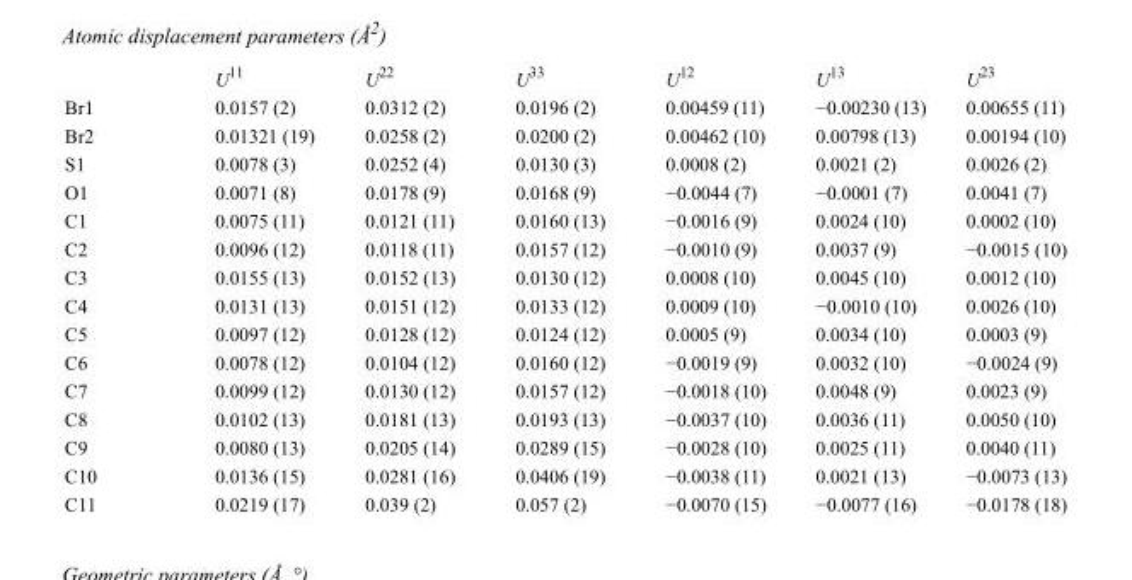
<table><thead><tr><td></td><td>U<sup>11</sup></td><td>U<sup>22</sup></td><td>U<sup>33</sup></td><td>U<sup>12</sup></td><td>U<sup>13</sup></td><td>U<sup>23</sup></td></tr></thead><tbody><tr><td>Br1</td><td>0.0157 (2)</td><td>0.0312 (2)</td><td>0.0196 (2)</td><td>0.00459 (11)</td><td>−0.00230 (13)</td><td>0.00655 (11)</td></tr><tr><td>Br2</td><td>0.01321 (19)</td><td>0.0258 (2)</td><td>0.0200 (2)</td><td>0.00462 (10)</td><td>0.00798 (13)</td><td>0.00194 (10)</td></tr><tr><td>S1</td><td>0.0078 (3)</td><td>0.0252 (4)</td><td>0.0130 (3)</td><td>0.0008 (2)</td><td>0.0021 (2)</td><td>0.0026 (2)</td></tr><tr><td>O1</td><td>0.0071 (8)</td><td>0.0178 (9)</td><td>0.0168 (9)</td><td>−0.0044 (7)</td><td>−0.0001 (7)</td><td>0.0041 (7)</td></tr><tr><td>C1</td><td>0.0075 (11)</td><td>0.0121 (11)</td><td>0.0160 (13)</td><td>−0.0016 (9)</td><td>0.0024 (10)</td><td>0.0002 (10)</td></tr><tr><td>C2</td><td>0.0096 (12)</td><td>0.0118 (11)</td><td>0.0157 (12)</td><td>−0.0010 (9)</td><td>0.0037 (9)</td><td>−0.0015 (10)</td></tr><tr><td>C3</td><td>0.0155 (13)</td><td>0.0152 (13)</td><td>0.0130 (12)</td><td>0.0008 (10)</td><td>0.0045 (10)</td><td>0.0012 (10)</td></tr><tr><td>C4</td><td>0.0131 (13)</td><td>0.0151 (12)</td><td>0.0133 (12)</td><td>0.0009 (10)</td><td>−0.0010 (10)</td><td>0.0026 (10)</td></tr><tr><td>C5</td><td>0.0097 (12)</td><td>0.0128 (12)</td><td>0.0124 (12)</td><td>0.0005 (9)</td><td>0.0034 (10)</td><td>0.0003 (9)</td></tr><tr><td>C6</td><td>0.0078 (12)</td><td>0.0104 (12)</td><td>0.0160 (12)</td><td>−0.0019 (9)</td><td>0.0032 (10)</td><td>−0.0024 (9)</td></tr><tr><td>C7</td><td>0.0099 (12)</td><td>0.0130 (12)</td><td>0.0157 (12)</td><td>−0.0018 (10)</td><td>0.0048 (9)</td><td>0.0023 (9)</td></tr><tr><td>C8</td><td>0.0102 (13)</td><td>0.0181 (13)</td><td>0.0193 (13)</td><td>−0.0037 (10)</td><td>0.0036 (11)</td><td>0.0050 (10)</td></tr><tr><td>C9</td><td>0.0080 (13)</td><td>0.0205 (14)</td><td>0.0289 (15)</td><td>−0.0028 (10)</td><td>0.0025 (11)</td><td>0.0040 (11)</td></tr><tr><td>C10</td><td>0.0136 (15)</td><td>0.0281 (16)</td><td>0.0406 (19)</td><td>−0.0038 (11)</td><td>0.0021 (13)</td><td>−0.0073 (13)</td></tr><tr><td>C11</td><td>0.0219 (17)</td><td>0.039 (2)</td><td>0.057 (2)</td><td>−0.0070 (15)</td><td>−0.0077 (16)</td><td>−0.0178 (18)</td></tr></tbody></table>